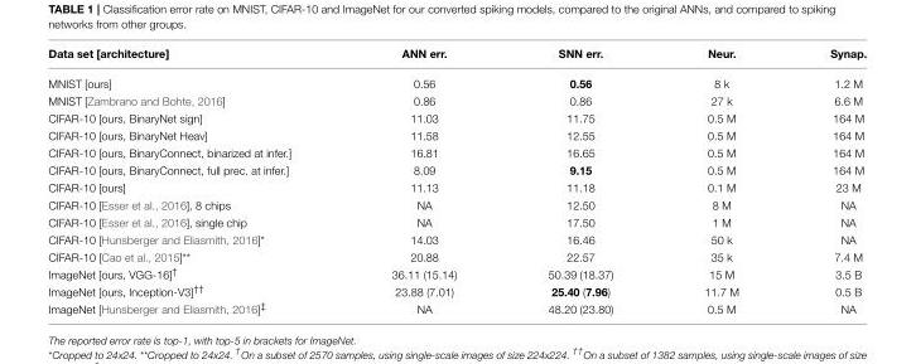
<table><thead><tr><td>Data set [architecture]</td><td>ANN err.</td><td>SNN err.</td><td>Neur.</td><td>Synap.</td></tr></thead><tbody><tr><td>MNIST [ours]</td><td>0.56</td><td>0.56</td><td>8 k</td><td>1.2 M</td></tr><tr><td>MNIST [Zambrano and Bohte, 2016]</td><td>0.86</td><td>0.86</td><td>27 k</td><td>6.6 M</td></tr><tr><td>CIFAR-10 [ours, BinaryNet sign]</td><td>11.03</td><td>11.75</td><td>0.5 M</td><td>164 M</td></tr><tr><td>CIFAR-10 [ours, BinaryNet Heav]</td><td>11.58</td><td>12.55</td><td>0.5 M</td><td>164 M</td></tr><tr><td>CIFAR-10 [ours, BinaryConnect, binarized at infer.]</td><td>16.81</td><td>16.65</td><td>0.5 M</td><td>164 M</td></tr><tr><td>CIFAR-10 [ours, BinaryConnect, full prec. at infer.]</td><td>8.09</td><td>9.15</td><td>0.5 M</td><td>164 M</td></tr><tr><td>CIFAR-10 [ours]</td><td>11.13</td><td>11.18</td><td>0.1 M</td><td>23 M</td></tr><tr><td>CIFAR-10 [Esser et al., 2016], 8 chips</td><td>NA</td><td>12.50</td><td>8 M</td><td>NA</td></tr><tr><td>CIFAR-10 [Esser et al., 2016], single chip</td><td>NA</td><td>17.50</td><td>1 M</td><td>NA</td></tr><tr><td>CIFAR-10 [Hunsberger and Eliasmith, 2016]*</td><td>14.03</td><td>16.46</td><td>50 k</td><td>NA</td></tr><tr><td>CIFAR-10 [Cao et al., 2015]**</td><td>20.88</td><td>22.57</td><td>35 k</td><td>7.4 M</td></tr><tr><td>ImageNet [ours, VGG-16]<sup>†</sup></td><td>36.11 (15.14)</td><td>50.39 (18.37)</td><td>15 M</td><td>3.5 B</td></tr><tr><td>ImageNet [ours, Inception-V3]<sup>††</sup></td><td>23.88 (7.01)</td><td>25.40 (7.96)</td><td>11.7 M</td><td>0.5 B</td></tr><tr><td>ImageNet [Hunsberger and Eliasmith, 2016]<sup>‡</sup></td><td>NA</td><td>48.20 (23.80)</td><td>0.5 M</td><td>NA</td></tr></tbody></table>